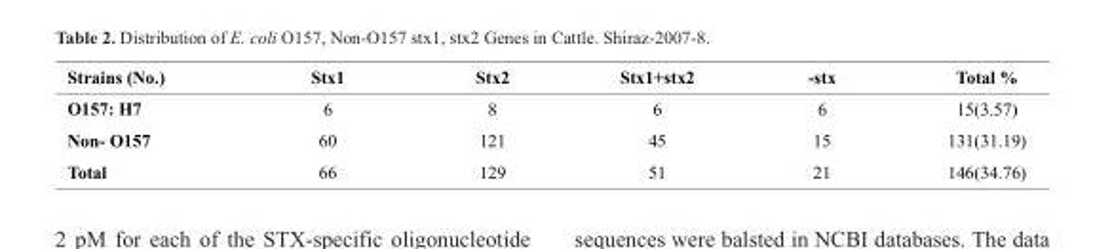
<table><thead><tr><td>Strains (No.)</td><td>Stx1</td><td>Stx2</td><td>Stx1+stx2</td><td>-stx</td><td>Total %</td></tr></thead><tbody><tr><td>O157: H7</td><td>6</td><td>8</td><td>6</td><td>6</td><td>15(3.57)</td></tr><tr><td>Non- O157</td><td>60</td><td>121</td><td>45</td><td>15</td><td>131(31.19)</td></tr><tr><td>Total</td><td>66</td><td>129</td><td>51</td><td>21</td><td>146(34.76)</td></tr></tbody></table>